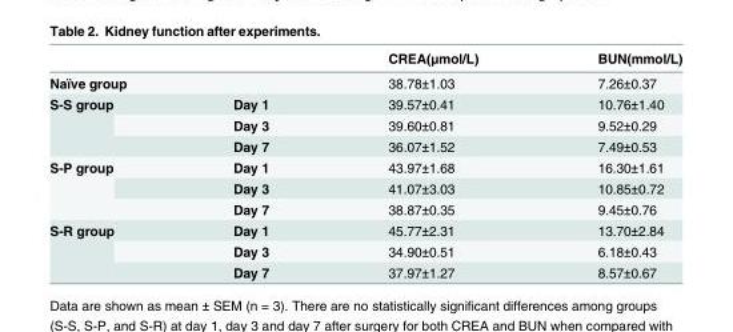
<table><thead><tr><td></td><td></td><td>CREA(μmol/L)</td><td>BUN(mmol/L)</td></tr></thead><tbody><tr><td colspan="2">Naïve group</td><td>38.78±1.03</td><td>7.26±0.37</td></tr><tr><td rowspan="3">S-S group</td><td>Day 1</td><td>39.57±0.41</td><td>10.76±1.40</td></tr><tr><td>Day 3</td><td>39.60±0.81</td><td>9.52±0.29</td></tr><tr><td>Day 7</td><td>36.07±1.52</td><td>7.49±0.53</td></tr><tr><td rowspan="3">S-P group</td><td>Day 1</td><td>43.97±1.68</td><td>16.30±1.61</td></tr><tr><td>Day 3</td><td>41.07±3.03</td><td>10.85±0.72</td></tr><tr><td>Day 7</td><td>38.87±0.35</td><td>9.45±0.76</td></tr><tr><td rowspan="3">S-R group</td><td>Day 1</td><td>45.77±2.31</td><td>13.70±2.84</td></tr><tr><td>Day 3</td><td>34.90±0.51</td><td>6.18±0.43</td></tr><tr><td>Day 7</td><td>37.97±1.27</td><td>8.57±0.67</td></tr></tbody></table>